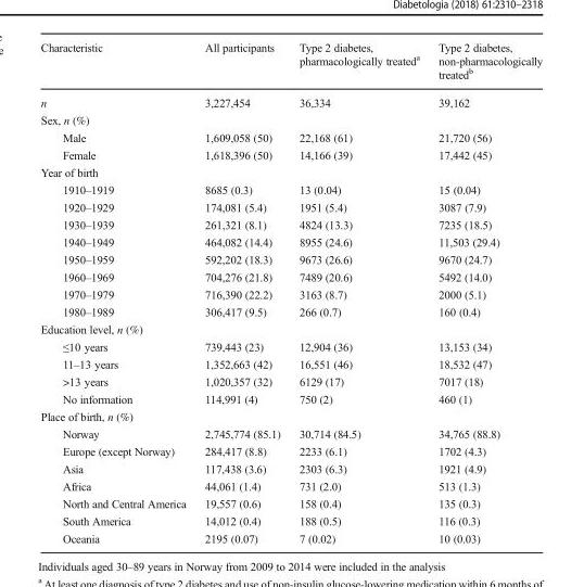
<table><thead><tr><td>Characteristic</td><td>All participants</td><td>Type 2 diabetes, pharmacologically treated<sup>a</sup></td><td>Type 2 diabetes, non-pharmacologically treated<sup>b</sup></td></tr></thead><tbody><tr><td>n</td><td>3,227,454</td><td>36,334</td><td>39,162</td></tr><tr><td colspan="4">Sex, n (%)</td></tr><tr><td>Male</td><td>1,609,058 (50)</td><td>22,168 (61)</td><td>21,720 (56)</td></tr><tr><td>Female</td><td>1,618,396 (50)</td><td>14,166 (39)</td><td>17,442 (45)</td></tr><tr><td colspan="4">Year of birth</td></tr><tr><td>1910–1919</td><td>8685 (0.3)</td><td>13 (0.04)</td><td>15 (0.04)</td></tr><tr><td>1920–1929</td><td>174,081 (5.4)</td><td>1951 (5.4)</td><td>3087 (7.9)</td></tr><tr><td>1930–1939</td><td>261,321 (8.1)</td><td>4824 (13.3)</td><td>7235 (18.5)</td></tr><tr><td>1940–1949</td><td>464,082 (14.4)</td><td>8955 (24.6)</td><td>11,503 (29.4)</td></tr><tr><td>1950–1959</td><td>592,202 (18.3)</td><td>9673 (26.6)</td><td>9670 (24.7)</td></tr><tr><td>1960–1969</td><td>704,276 (21.8)</td><td>7489 (20.6)</td><td>5492 (14.0)</td></tr><tr><td>1970–1979</td><td>716,390 (22.2)</td><td>3163 (8.7)</td><td>2000 (5.1)</td></tr><tr><td>1980–1989</td><td>306,417 (9.5)</td><td>266 (0.7)</td><td>160 (0.4)</td></tr><tr><td colspan="4">Education level, n (%)</td></tr><tr><td>≤10 years</td><td>739,443 (23)</td><td>12,904 (36)</td><td>13,153 (34)</td></tr><tr><td>11–13 years</td><td>1,352,663 (42)</td><td>16,551 (46)</td><td>18,532 (47)</td></tr><tr><td>&gt;13 years</td><td>1,020,357 (32)</td><td>6129 (17)</td><td>7017 (18)</td></tr><tr><td>No information</td><td>114,991 (4)</td><td>750 (2)</td><td>460 (1)</td></tr><tr><td colspan="4">Place of birth, n (%)</td></tr><tr><td>Norway</td><td>2,745,774 (85.1)</td><td>30,714 (84.5)</td><td>34,765 (88.8)</td></tr><tr><td>Europe (except Norway)</td><td>284,417 (8.8)</td><td>2233 (6.1)</td><td>1702 (4.3)</td></tr><tr><td>Asia</td><td>117,438 (3.6)</td><td>2303 (6.3)</td><td>1921 (4.9)</td></tr><tr><td>Africa</td><td>44,061 (1.4)</td><td>731 (2.0)</td><td>513 (1.3)</td></tr><tr><td>North and Central America</td><td>19,557 (0.6)</td><td>158 (0.4)</td><td>135 (0.3)</td></tr><tr><td>South America</td><td>14,012 (0.4)</td><td>188 (0.5)</td><td>116 (0.3)</td></tr><tr><td>Oceania</td><td>2195 (0.07)</td><td>7 (0.02)</td><td>10 (0.03)</td></tr></tbody></table>